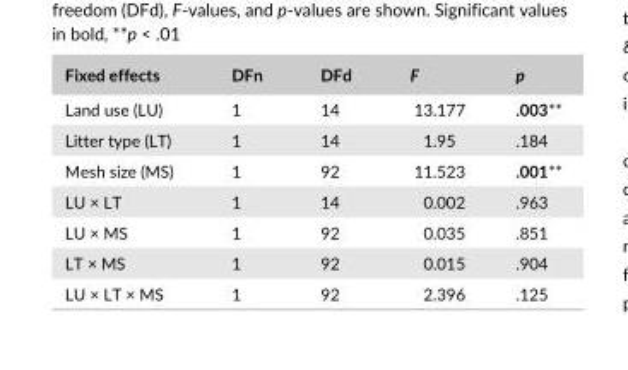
<table><thead><tr><td>Fixed effects</td><td>DFn</td><td>DFd</td><td>F</td><td>p</td></tr></thead><tbody><tr><td>Land use (LU)</td><td>1</td><td>14</td><td>13.177</td><td>.003**</td></tr><tr><td>Litter type (LT)</td><td>1</td><td>14</td><td>1.95</td><td>.184</td></tr><tr><td>Mesh size (MS)</td><td>1</td><td>92</td><td>11.523</td><td>.001**</td></tr><tr><td>LU × LT</td><td>1</td><td>14</td><td>0.002</td><td>.963</td></tr><tr><td>LU × MS</td><td>1</td><td>92</td><td>0.035</td><td>.851</td></tr><tr><td>LT × MS</td><td>1</td><td>92</td><td>0.015</td><td>.904</td></tr><tr><td>LU × LT × MS</td><td>1</td><td>92</td><td>2.396</td><td>.125</td></tr></tbody></table>